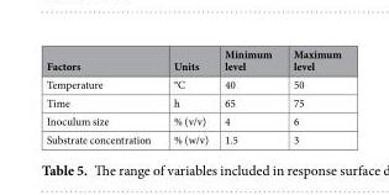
<table><thead><tr><td>Factors</td><td>Units</td><td>Minimum level</td><td>Maximum level</td></tr></thead><tbody><tr><td>Temperature</td><td>°C</td><td>40</td><td>50</td></tr><tr><td>Time</td><td>h</td><td>65</td><td>75</td></tr><tr><td>Inoculum size</td><td>% (v/v)</td><td>4</td><td>6</td></tr><tr><td>Substrate concentration</td><td>% (w/v)</td><td>1.5</td><td>3</td></tr></tbody></table>